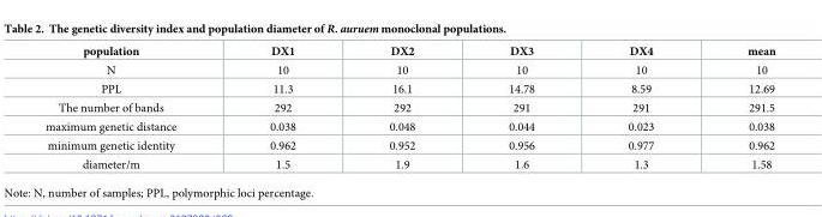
<table><thead><tr><td>population</td><td>DX1</td><td>DX2</td><td>DX3</td><td>DX4</td><td>mean</td></tr></thead><tbody><tr><td>N</td><td>10</td><td>10</td><td>10</td><td>10</td><td>10</td></tr><tr><td>PPL</td><td>11.3</td><td>16.1</td><td>14.78</td><td>8.59</td><td>12.69</td></tr><tr><td>The number of bands</td><td>292</td><td>292</td><td>291</td><td>291</td><td>291.5</td></tr><tr><td>maximum genetic distance</td><td>0.038</td><td>0.048</td><td>0.044</td><td>0.023</td><td>0.038</td></tr><tr><td>minimum genetic identity</td><td>0.962</td><td>0.952</td><td>0.956</td><td>0.977</td><td>0.962</td></tr><tr><td>diameter/m</td><td>1.5</td><td>1.9</td><td>1.6</td><td>1.3</td><td>1.58</td></tr></tbody></table>